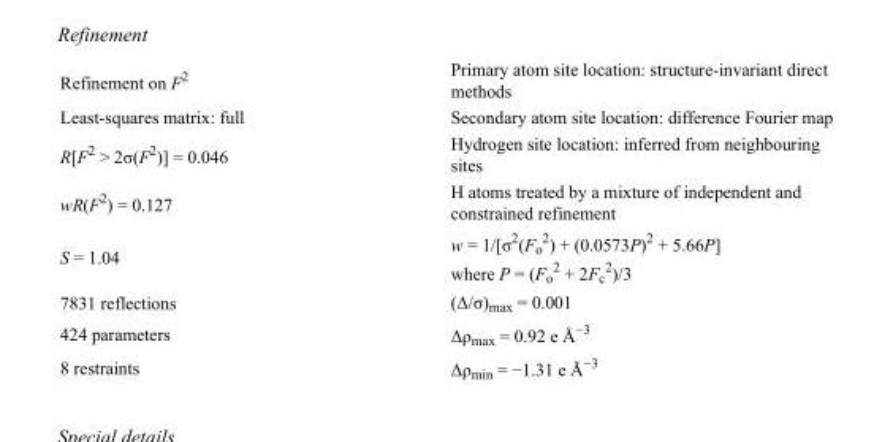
<table><tbody><tr><td>Refinement on F<sup>2</sup></td><td>Primary atom site location: structure-invariant direct methods</td></tr><tr><td>Least-squares matrix: full</td><td>Secondary atom site location: difference Fourier map</td></tr><tr><td>R[F<sup>2</sup> &gt; 2σ(F<sup>2</sup>)] = 0.046</td><td>Hydrogen site location: inferred from neighbouring sites</td></tr><tr><td>wR(F<sup>2</sup>) = 0.127</td><td>H atoms treated by a mixture of independent and constrained refinement</td></tr><tr><td>S = 1.04</td><td>w = 1/[σ<sup>2</sup>(F<sub>o</sub> <sup>2</sup>) + (0.0573P)<sup>2</sup> + 5.66P] where P = (F<sub>o</sub> <sup>2</sup> + 2F<sub>c</sub> <sup>2</sup>)/3</td></tr><tr><td>7831 reflections</td><td>(Δ/σ)<sub>max</sub> = 0.001</td></tr><tr><td>424 parameters</td><td>Δρ<sub>max</sub> = 0.92 e Å<sup>−3</sup></td></tr><tr><td>8 restraints</td><td>Δρ<sub>min</sub> = −1.31 e Å<sup>−3</sup></td></tr></tbody></table>